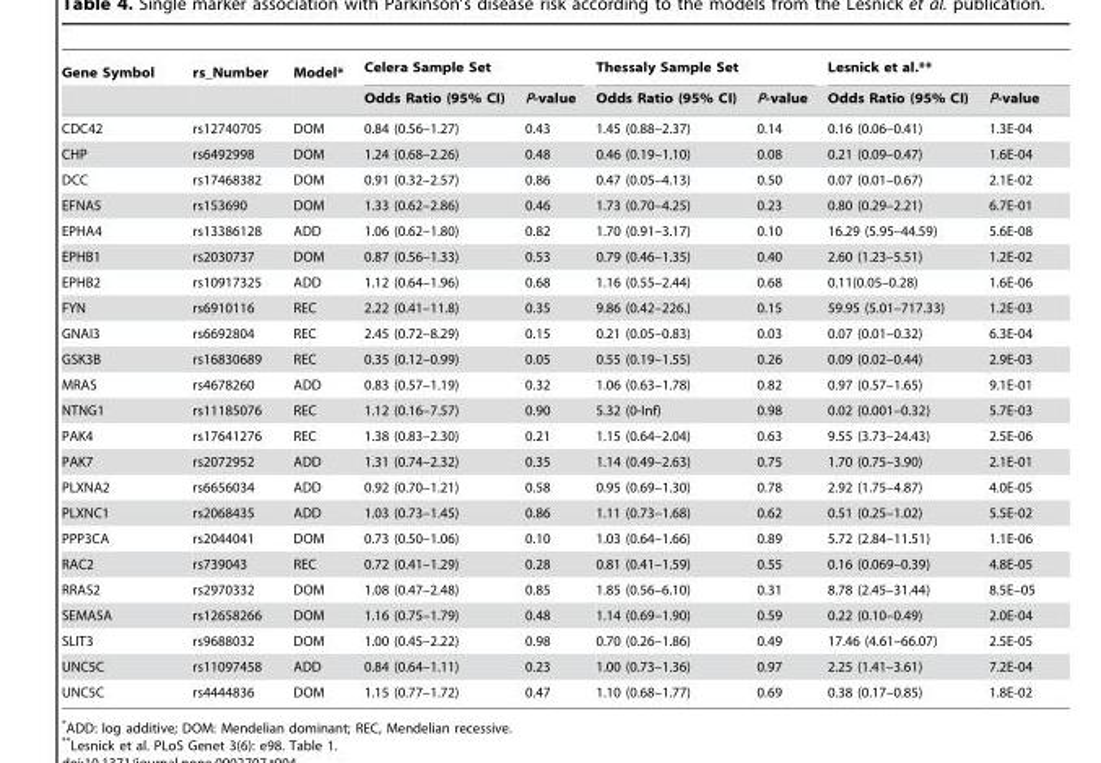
<table><thead><tr><td rowspan="2">Gene Symbol</td><td rowspan="2">rs_Number</td><td rowspan="2">Model*</td><td colspan="2">Celera Sample Set</td><td colspan="2">Thessaly Sample Set</td><td colspan="2">Lesnick et al.**</td></tr><tr><td>Odds Ratio (95% CI)</td><td>P-value</td><td>Odds Ratio (95% CI)</td><td>P-value</td><td>Odds Ratio (95% CI)</td><td>P-value</td></tr></thead><tbody><tr><td>CDC42</td><td>rs12740705</td><td>DOM</td><td>0.84 (0.56–1.27)</td><td>0.43</td><td>1.45 (0.88–2.37)</td><td>0.14</td><td>0.16 (0.06–0.41)</td><td>1.3E-04</td></tr><tr><td>CHP</td><td>rs6492998</td><td>DOM</td><td>1.24 (0.68–2.26)</td><td>0.48</td><td>0.46 (0.19–1.10)</td><td>0.08</td><td>0.21 (0.09–0.47)</td><td>1.6E-04</td></tr><tr><td>DCC</td><td>rs17468382</td><td>DOM</td><td>0.91 (0.32–2.57)</td><td>0.86</td><td>0.47 (0.05–4.13)</td><td>0.50</td><td>0.07 (0.01–0.67)</td><td>2.1E-02</td></tr><tr><td>EFNA5</td><td>rs153690</td><td>DOM</td><td>1.33 (0.62–2.86)</td><td>0.46</td><td>1.73 (0.70–4.25)</td><td>0.23</td><td>0.80 (0.29–2.21)</td><td>6.7E-01</td></tr><tr><td>EPHA4</td><td>rs13386128</td><td>ADD</td><td>1.06 (0.62–1.80)</td><td>0.82</td><td>1.70 (0.91–3.17)</td><td>0.10</td><td>16.29 (5.95–44.59)</td><td>5.6E-08</td></tr><tr><td>EPHB1</td><td>rs2030737</td><td>DOM</td><td>0.87 (0.56–1.33)</td><td>0.53</td><td>0.79 (0.46–1.35)</td><td>0.40</td><td>2.60 (1.23–5.51)</td><td>1.2E-02</td></tr><tr><td>EPHB2</td><td>rs10917325</td><td>ADD</td><td>1.12 (0.64–1.96)</td><td>0.68</td><td>1.16 (0.55–2.44)</td><td>0.68</td><td>0.11(0.05–0.28)</td><td>1.6E-06</td></tr><tr><td>FYN</td><td>rs6910116</td><td>REC</td><td>2.22 (0.41–11.8)</td><td>0.35</td><td>9.86 (0.42–226.)</td><td>0.15</td><td>59.95 (5.01–717.33)</td><td>1.2E-03</td></tr><tr><td>GNAI3</td><td>rs6692804</td><td>REC</td><td>2.45 (0.72–8.29)</td><td>0.15</td><td>0.21 (0.05–0.83)</td><td>0.03</td><td>0.07 (0.01–0.32)</td><td>6.3E-04</td></tr><tr><td>GSK3B</td><td>rs16830689</td><td>REC</td><td>0.35 (0.12–0.99)</td><td>0.05</td><td>0.55 (0.19–1.55)</td><td>0.26</td><td>0.09 (0.02–0.44)</td><td>2.9E-03</td></tr><tr><td>MRAS</td><td>rs4678260</td><td>ADD</td><td>0.83 (0.57–1.19)</td><td>0.32</td><td>1.06 (0.63–1.78)</td><td>0.82</td><td>0.97 (0.57–1.65)</td><td>9.1E-01</td></tr><tr><td>NTNG1</td><td>rs11185076</td><td>REC</td><td>1.12 (0.16–7.57)</td><td>0.90</td><td>5.32 (0-Inf)</td><td>0.98</td><td>0.02 (0.001–0.32)</td><td>5.7E-03</td></tr><tr><td>PAK4</td><td>rs17641276</td><td>REC</td><td>1.38 (0.83–2.30)</td><td>0.21</td><td>1.15 (0.64–2.04)</td><td>0.63</td><td>9.55 (3.73–24.43)</td><td>2.5E-06</td></tr><tr><td>PAK7</td><td>rs2072952</td><td>ADD</td><td>1.31 (0.74–2.32)</td><td>0.35</td><td>1.14 (0.49–2.63)</td><td>0.75</td><td>1.70 (0.75–3.90)</td><td>2.1E-01</td></tr><tr><td>PLXNA2</td><td>rs6656034</td><td>ADD</td><td>0.92 (0.70–1.21)</td><td>0.58</td><td>0.95 (0.69–1.30)</td><td>0.78</td><td>2.92 (1.75–4.87)</td><td>4.0E-05</td></tr><tr><td>PLXNC1</td><td>rs2068435</td><td>ADD</td><td>1.03 (0.73–1.45)</td><td>0.86</td><td>1.11 (0.73–1.68)</td><td>0.62</td><td>0.51 (0.25–1.02)</td><td>5.5E-02</td></tr><tr><td>PPP3CA</td><td>rs2044041</td><td>DOM</td><td>0.73 (0.50–1.06)</td><td>0.10</td><td>1.03 (0.64–1.66)</td><td>0.89</td><td>5.72 (2.84–11.51)</td><td>1.1E-06</td></tr><tr><td>RAC2</td><td>rs739043</td><td>REC</td><td>0.72 (0.41–1.29)</td><td>0.28</td><td>0.81 (0.41–1.59)</td><td>0.55</td><td>0.16 (0.069–0.39)</td><td>4.8E-05</td></tr><tr><td>RRAS2</td><td>rs2970332</td><td>DOM</td><td>1.08 (0.47–2.48)</td><td>0.85</td><td>1.85 (0.56–6.10)</td><td>0.31</td><td>8.78 (2.45–31.44)</td><td>8.5E–05</td></tr><tr><td>SEMA5A</td><td>rs12658266</td><td>DOM</td><td>1.16 (0.75–1.79)</td><td>0.48</td><td>1.14 (0.69–1.90)</td><td>0.59</td><td>0.22 (0.10–0.49)</td><td>2.0E-04</td></tr><tr><td>SLIT3</td><td>rs9688032</td><td>DOM</td><td>1.00 (0.45–2.22)</td><td>0.98</td><td>0.70 (0.26–1.86)</td><td>0.49</td><td>17.46 (4.61–66.07)</td><td>2.5E-05</td></tr><tr><td>UNC5C</td><td>rs11097458</td><td>ADD</td><td>0.84 (0.64–1.11)</td><td>0.23</td><td>1.00 (0.73–1.36)</td><td>0.97</td><td>2.25 (1.41–3.61)</td><td>7.2E-04</td></tr><tr><td>UNC5C</td><td>rs4444836</td><td>DOM</td><td>1.15 (0.77–1.72)</td><td>0.47</td><td>1.10 (0.68–1.77)</td><td>0.69</td><td>0.38 (0.17–0.85)</td><td>1.8E-02</td></tr></tbody></table>